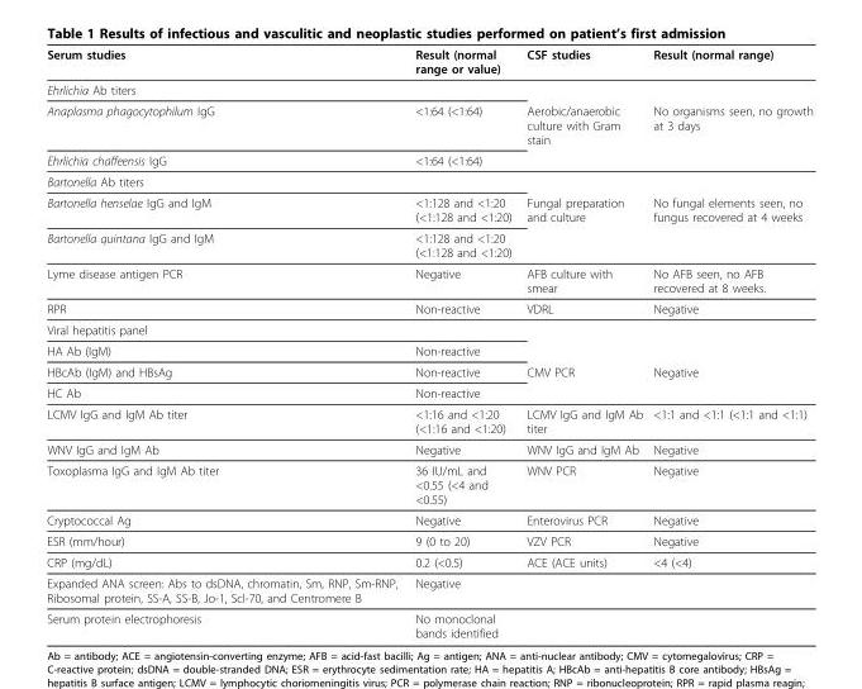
<table><thead><tr><td>Serum studies</td><td>Result (normal range or value)</td><td>CSF studies</td><td>Result (normal range)</td></tr></thead><tbody><tr><td colspan="4">Ehrlichia Ab titers</td></tr><tr><td>Anaplasma phagocytophilum IgG</td><td>&lt;1:64 (&lt;1:64)</td><td>Aerobic/anaerobic culture with Gram stain</td><td>No organisms seen, no growth at 3 days</td></tr><tr><td>Ehrlichia chaffeensis IgG</td><td>&lt;1:64 (&lt;1:64)</td><td></td><td></td></tr><tr><td colspan="4">Bartonella Ab titers</td></tr><tr><td>Bartonella henselae IgG and IgM</td><td>&lt;1:128 and &lt;1:20 (&lt;1:128 and &lt;1:20)</td><td>Fungal preparation and culture</td><td>No fungal elements seen, no fungus recovered at 4 weeks</td></tr><tr><td>Bartonella quintana IgG and IgM</td><td>&lt;1:128 and &lt;1:20 (&lt;1:128 and &lt;1:20)</td><td></td><td></td></tr><tr><td>Lyme disease antigen PCR</td><td>Negative</td><td>AFB culture with smear</td><td>No AFB seen, no AFB recovered at 8 weeks.</td></tr><tr><td>RPR</td><td>Non-reactive</td><td>VDRL</td><td>Negative</td></tr><tr><td colspan="4">Viral hepatitis panel</td></tr><tr><td>HA Ab (IgM)</td><td>Non-reactive</td><td></td><td></td></tr><tr><td>HBcAb (IgM) and HBsAg</td><td>Non-reactive</td><td>CMV PCR</td><td>Negative</td></tr><tr><td>HC Ab</td><td>Non-reactive</td><td></td><td></td></tr><tr><td>LCMV IgG and IgM Ab titer</td><td>&lt;1:16 and &lt;1:20 (&lt;1:16 and &lt;1:20)</td><td>LCMV IgG and IgM Ab titer</td><td>&lt;1:1 and &lt;1:1 (&lt;1:1 and &lt;1:1)</td></tr><tr><td>WNV IgG and IgM Ab</td><td>Negative</td><td>WNV IgG and IgM Ab</td><td>Negative</td></tr><tr><td>Toxoplasma IgG and IgM Ab titer</td><td>36 IU/mL and &lt;0.55 (&lt;4 and &lt;0.55)</td><td>WNV PCR</td><td>Negative</td></tr><tr><td>Cryptococcal Ag</td><td>Negative</td><td>Enterovirus PCR</td><td>Negative</td></tr><tr><td>ESR (mm/hour)</td><td>9 (0 to 20)</td><td>VZV PCR</td><td>Negative</td></tr><tr><td>CRP (mg/dL)</td><td>0.2 (&lt;0.5)</td><td>ACE (ACE units)</td><td>&lt;4 (&lt;4)</td></tr><tr><td>Expanded ANA screen: Abs to dsDNA, chromatin, Sm, RNP, Sm-RNP, Ribosomal protein, SS-A, SS-B, Jo-1, Scl-70, and Centromere B</td><td>Negative</td><td></td><td></td></tr><tr><td>Serum protein electrophoresis</td><td>No monoclonal bands identified</td><td></td><td></td></tr></tbody></table>